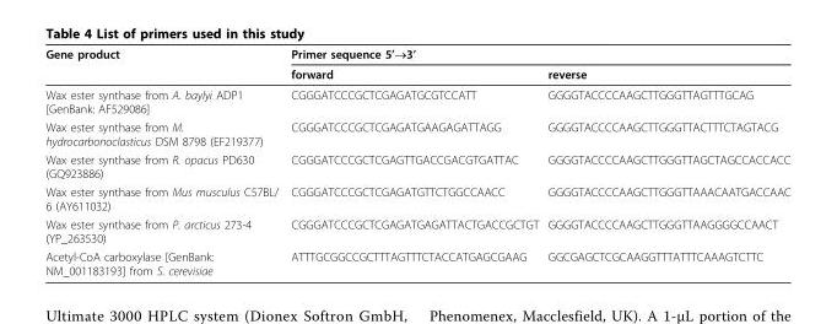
<table><thead><tr><td rowspan="2">Gene product</td><td colspan="2">Primer sequence 5’→3’</td></tr><tr><td>forward</td><td>reverse</td></tr></thead><tbody><tr><td>Wax ester synthase from A. baylyi ADP1 [GenBank: AF529086]</td><td>CGGGATCCCGCTCGAGATGCGTCCATT</td><td>GGGGTACCCCAAGCTTGGGTTAGTTTGCAG</td></tr><tr><td>Wax ester synthase from M. hydrocarbonoclasticus DSM 8798 (EF219377)</td><td>CGGGATCCCGCTCGAGATGAAGAGATTAGG</td><td>GGGGTACCCCAAGCTTGGGTTACTTTCTAGTACG</td></tr><tr><td>Wax ester synthase from R. opacus PD630 (GQ923886)</td><td>CGGGATCCCGCTCGAGTTGACCGACGTGATTAC</td><td>GGGGTACCCCAAGCTTGGGTTAGCTAGCCACCACC</td></tr><tr><td>Wax ester synthase from Mus musculus C57BL/ 6 (AY611032)</td><td>CGGGATCCCGCTCGAGATGTTCTGGCCAACC</td><td>GGGGTACCCCAAGCTTGGGTTAAACAATGACCAAC</td></tr><tr><td>Wax ester synthase from P. arcticus 273-4 (YP_263530)</td><td>CGGGATCCCGCTCGAGATGAGATTACTGACCGCTGT</td><td>GGGGTACCCCAAGCTTGGGTTAAGGGGCCAACT</td></tr><tr><td>Acetyl-CoA carboxylase [GenBank: NM_001183193] from S. cerevisiae</td><td>ATTTGCGGCCGCTTTAGTTTCTACCATGAGCGAAG</td><td>GGCGAGCTCGCAAGGTTTATTTCAAAGTCTTC</td></tr></tbody></table>